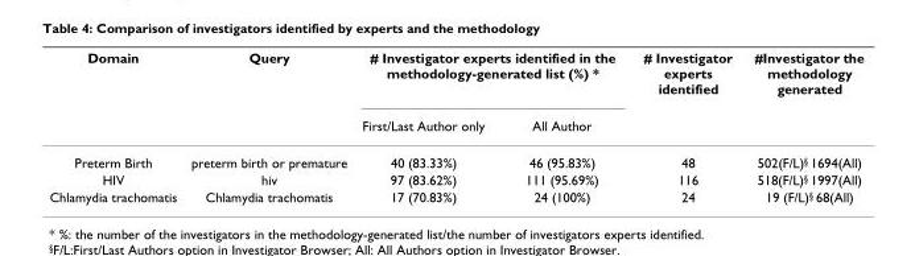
<table><thead><tr><td rowspan="2">Domain</td><td rowspan="2">Query</td><td colspan="2"># Investigator experts identified in the methodology-generated list (%) *</td><td rowspan="2"># Investigator experts identified</td><td rowspan="2">#Investigator the methodology generated</td></tr><tr><td>First/Last Author only</td><td>All Author</td></tr></thead><tbody><tr><td>Preterm Birth</td><td>preterm birth or premature</td><td>40 (83.33%)</td><td>46 (95.83%)</td><td>48</td><td>502(F/L)<sup>§</sup> 1694(All)</td></tr><tr><td>HIV</td><td>hiv</td><td>97 (83.62%)</td><td>111 (95.69%)</td><td>116</td><td>518(F/L)<sup>§</sup> 1997(All)</td></tr><tr><td>Chlamydia trachomatis</td><td>Chlamydia trachomatis</td><td>17 (70.83%)</td><td>24 (100%)</td><td>24</td><td>19 (F/L)<sup>§</sup> 68(All)</td></tr></tbody></table>